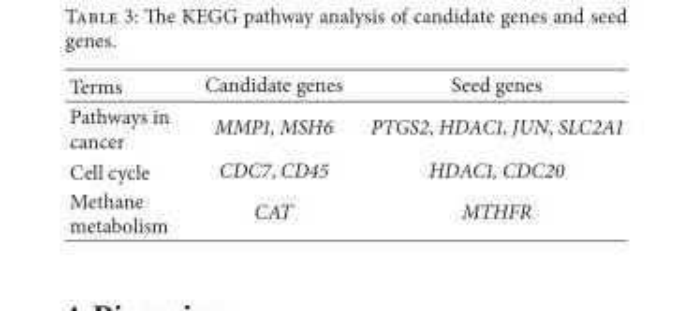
<table><thead><tr><td>Terms</td><td>Candidate genes</td><td>Seed genes</td></tr></thead><tbody><tr><td>Pathways in cancer</td><td>MMP1, MSH6</td><td>PTGS2, HDAC1, JUN, SLC2A1</td></tr><tr><td>Cell cycle</td><td>CDC7, CD45</td><td>HDAC1, CDC20</td></tr><tr><td>Methane metabolism</td><td>CAT</td><td>MTHFR</td></tr></tbody></table>